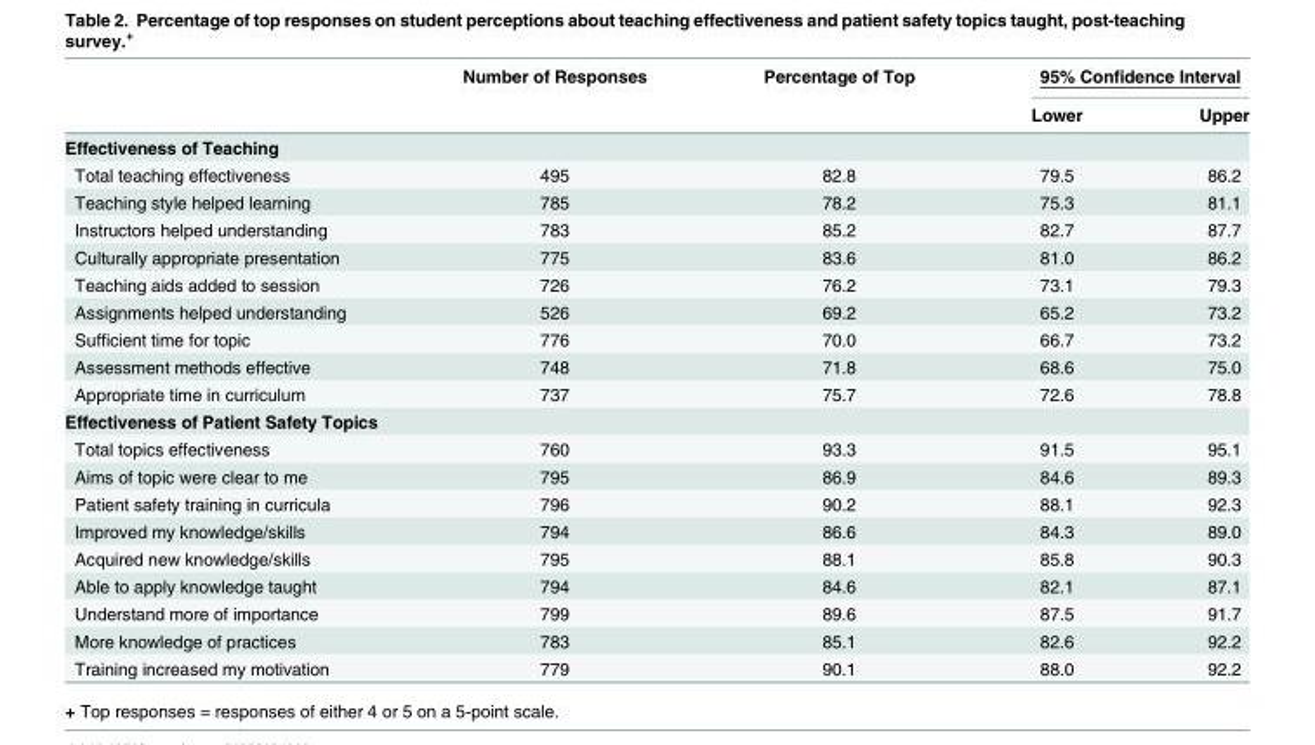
<table><thead><tr><td rowspan="2"></td><td rowspan="2">Number of Responses</td><td rowspan="2">Percentage of Top</td><td colspan="2">95% Confidence Interval</td></tr><tr><td>Lower</td><td>Upper</td></tr></thead><tbody><tr><td colspan="5">Effectiveness of Teaching</td></tr><tr><td>Total teaching effectiveness</td><td>495</td><td>82.8</td><td>79.5</td><td>86.2</td></tr><tr><td>Teaching style helped learning</td><td>785</td><td>78.2</td><td>75.3</td><td>81.1</td></tr><tr><td>Instructors helped understanding</td><td>783</td><td>85.2</td><td>82.7</td><td>87.7</td></tr><tr><td>Culturally appropriate presentation</td><td>775</td><td>83.6</td><td>81.0</td><td>86.2</td></tr><tr><td>Teaching aids added to session</td><td>726</td><td>76.2</td><td>73.1</td><td>79.3</td></tr><tr><td>Assignments helped understanding</td><td>526</td><td>69.2</td><td>65.2</td><td>73.2</td></tr><tr><td>Sufficient time for topic</td><td>776</td><td>70.0</td><td>66.7</td><td>73.2</td></tr><tr><td>Assessment methods effective</td><td>748</td><td>71.8</td><td>68.6</td><td>75.0</td></tr><tr><td>Appropriate time in curriculum</td><td>737</td><td>75.7</td><td>72.6</td><td>78.8</td></tr><tr><td colspan="5">Effectiveness of Patient Safety Topics</td></tr><tr><td>Total topics effectiveness</td><td>760</td><td>93.3</td><td>91.5</td><td>95.1</td></tr><tr><td>Aims of topic were clear to me</td><td>795</td><td>86.9</td><td>84.6</td><td>89.3</td></tr><tr><td>Patient safety training in curricula</td><td>796</td><td>90.2</td><td>88.1</td><td>92.3</td></tr><tr><td>Improved my knowledge/skills</td><td>794</td><td>86.6</td><td>84.3</td><td>89.0</td></tr><tr><td>Acquired new knowledge/skills</td><td>795</td><td>88.1</td><td>85.8</td><td>90.3</td></tr><tr><td>Able to apply knowledge taught</td><td>794</td><td>84.6</td><td>82.1</td><td>87.1</td></tr><tr><td>Understand more of importance</td><td>799</td><td>89.6</td><td>87.5</td><td>91.7</td></tr><tr><td>More knowledge of practices</td><td>783</td><td>85.1</td><td>82.6</td><td>92.2</td></tr><tr><td>Training increased my motivation</td><td>779</td><td>90.1</td><td>88.0</td><td>92.2</td></tr></tbody></table>